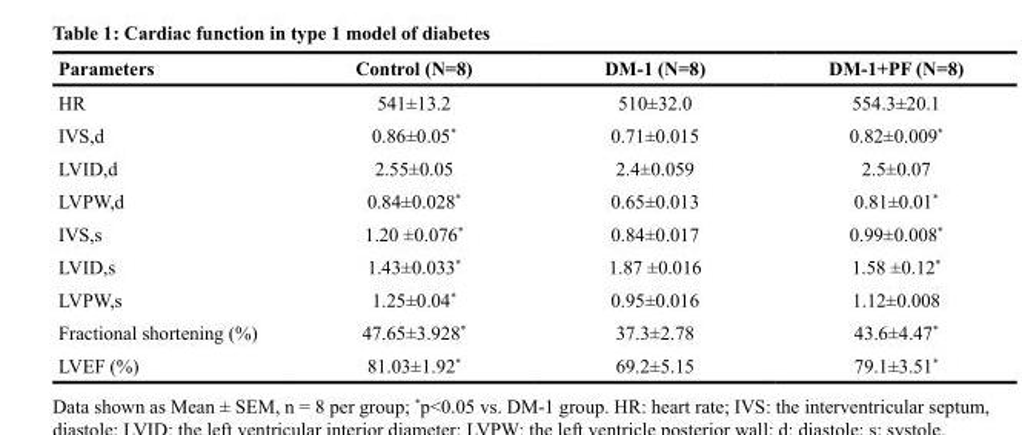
<table><thead><tr><td>Parameters</td><td>Control (N=8)</td><td>DM-1 (N=8)</td><td>DM-1+PF (N=8)</td></tr></thead><tbody><tr><td>HR</td><td>541±13.2</td><td>510±32.0</td><td>554.3±20.1</td></tr><tr><td>IVS,d</td><td>0.86±0.05*</td><td>0.71±0.015</td><td>0.82±0.009*</td></tr><tr><td>LVID,d</td><td>2.55±0.05</td><td>2.4±0.059</td><td>2.5±0.07</td></tr><tr><td>LVPW,d</td><td>0.84±0.028*</td><td>0.65±0.013</td><td>0.81±0.01*</td></tr><tr><td>IVS,s</td><td>1.20 ±0.076*</td><td>0.84±0.017</td><td>0.99±0.008*</td></tr><tr><td>LVID,s</td><td>1.43±0.033*</td><td>1.87 ±0.016</td><td>1.58 ±0.12*</td></tr><tr><td>LVPW,s</td><td>1.25±0.04*</td><td>0.95±0.016</td><td>1.12±0.008</td></tr><tr><td>Fractional shortening (%)</td><td>47.65±3.928*</td><td>37.3±2.78</td><td>43.6±4.47*</td></tr><tr><td>LVEF (%)</td><td>81.03±1.92*</td><td>69.2±5.15</td><td>79.1±3.51*</td></tr></tbody></table>